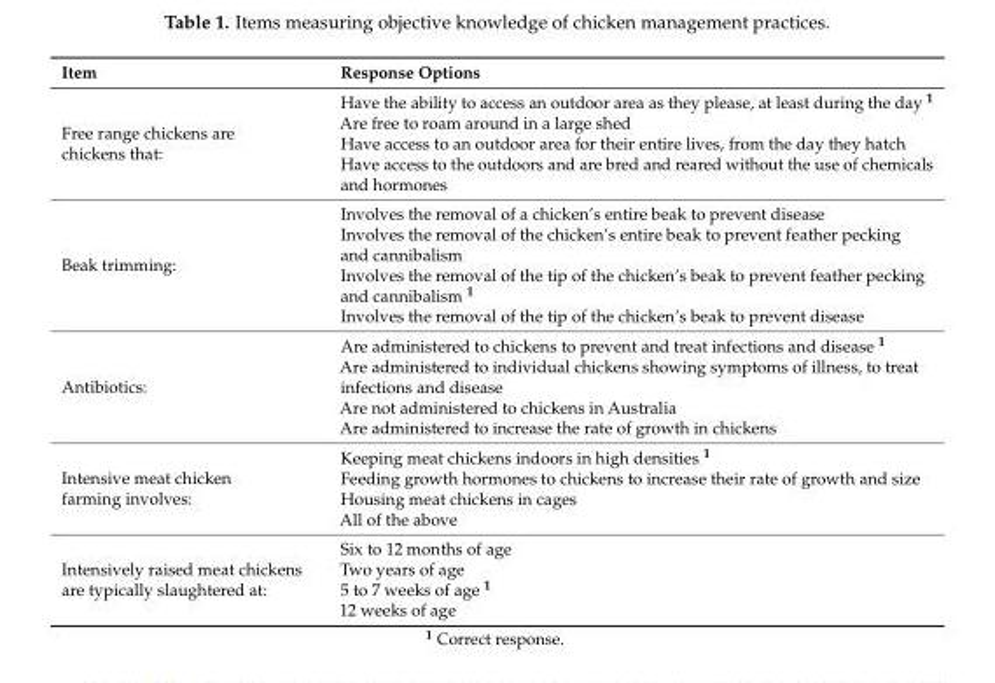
<table><thead><tr><td>Item</td><td>Response Options</td></tr></thead><tbody><tr><td>Free range chickens are chickens that:</td><td>Have the ability to access an outdoor area as they please, at least during the day <sup>1</sup> Are free to roam around in a large shed Have access to an outdoor area for their entire lives, from the day they hatch Have access to the outdoors and are bred and reared without the use of chemicals and hormones</td></tr><tr><td>Beak trimming:</td><td>Involves the removal of a chicken’s entire beak to prevent disease Involves the removal of the chicken’s entire beak to prevent feather pecking and cannibalism Involves the removal of the tip of the chicken’s beak to prevent feather pecking and cannibalism <sup>1</sup> Involves the removal of the tip of the chicken’s beak to prevent disease</td></tr><tr><td>Antibiotics:</td><td>Are administered to chickens to prevent and treat infections and disease <sup>1</sup> Are administered to individual chickens showing symptoms of illness, to treat infections and disease Are not administered to chickens in Australia Are administered to increase the rate of growth in chickens</td></tr><tr><td>Intensive meat chicken farming involves:</td><td>Keeping meat chickens indoors in high densities <sup>1</sup> Feeding growth hormones to chickens to increase their rate of growth and size Housing meat chickens in cages All of the above</td></tr><tr><td>Intensively raised meat chickens are typically slaughtered at:</td><td>Six to 12 months of age Two years of age 5 to 7 weeks of age <sup>1</sup> 12 weeks of age</td></tr></tbody></table>